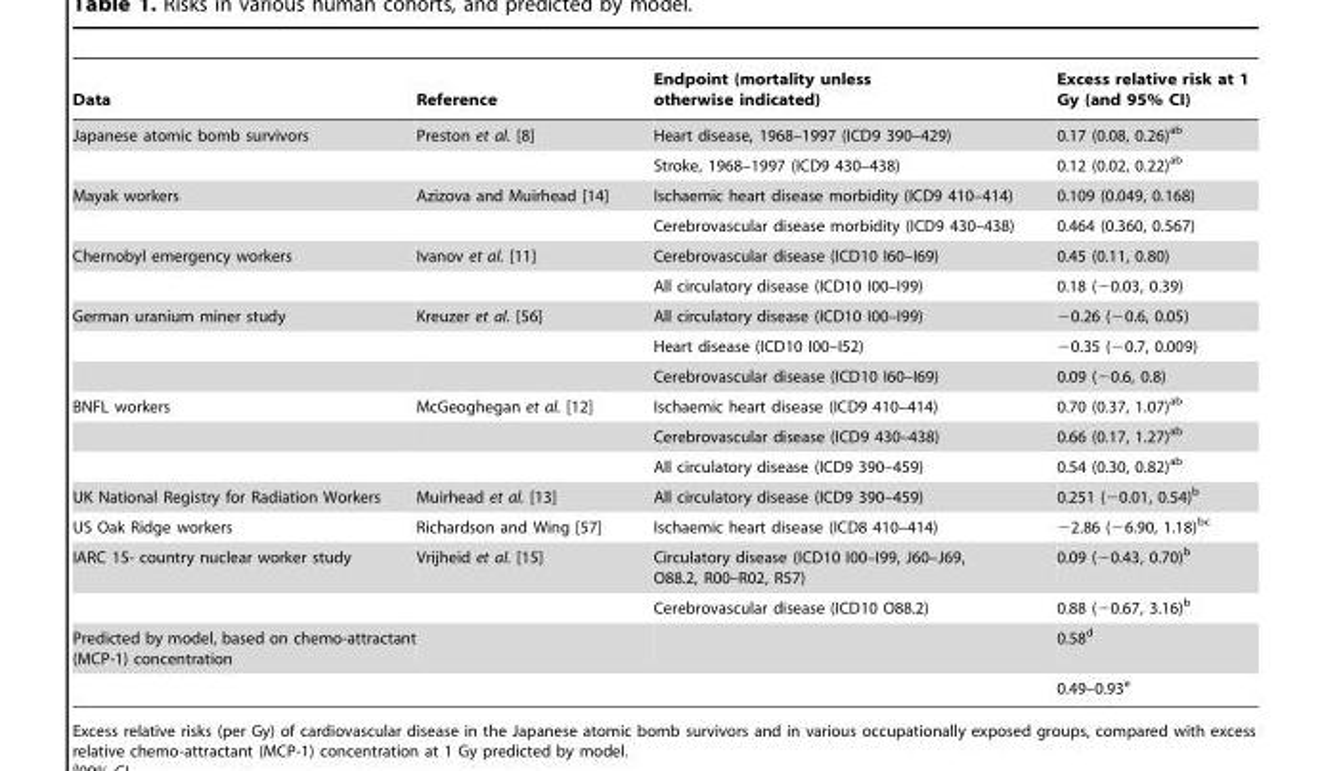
<table><thead><tr><td>Data</td><td>Reference</td><td>Endpoint (mortality unless otherwise indicated)</td><td>Excess relative risk at 1 Gy (and 95% CI)</td></tr></thead><tbody><tr><td rowspan="2">Japanese atomic bomb survivors</td><td>Preston et al. [8]</td><td>Heart disease, 1968–1997 (ICD9 390–429)</td><td>0.17 (0.08, 0.26)<sup>ab</sup></td></tr><tr><td></td><td>Stroke, 1968–1997 (ICD9 430–438)</td><td>0.12 (0.02, 0.22)<sup>ab</sup></td></tr><tr><td rowspan="2">Mayak workers</td><td>Azizova and Muirhead [14]</td><td>Ischaemic heart disease morbidity (ICD9 410–414)</td><td>0.109 (0.049, 0.168)</td></tr><tr><td></td><td>Cerebrovascular disease morbidity (ICD9 430–438)</td><td>0.464 (0.360, 0.567)</td></tr><tr><td rowspan="2">Chernobyl emergency workers</td><td>Ivanov et al. [11]</td><td>Cerebrovascular disease (ICD10 I60–I69)</td><td>0.45 (0.11, 0.80)</td></tr><tr><td></td><td>All circulatory disease (ICD10 I00–I99)</td><td>0.18 (−0.03, 0.39)</td></tr><tr><td rowspan="3">German uranium miner study</td><td>Kreuzer et al. [56]</td><td>All circulatory disease (ICD10 I00–I99)</td><td>−0.26 (−0.6, 0.05)</td></tr><tr><td></td><td>Heart disease (ICD10 I00–I52)</td><td>−0.35 (−0.7, 0.009)</td></tr><tr><td></td><td>Cerebrovascular disease (ICD10 I60–I69)</td><td>0.09 (−0.6, 0.8)</td></tr><tr><td rowspan="3">BNFL workers</td><td>McGeoghegan et al. [12]</td><td>Ischaemic heart disease (ICD9 410–414)</td><td>0.70 (0.37, 1.07)<sup>ab</sup></td></tr><tr><td></td><td>Cerebrovascular disease (ICD9 430–438)</td><td>0.66 (0.17, 1.27)<sup>ab</sup></td></tr><tr><td></td><td>All circulatory disease (ICD9 390–459)</td><td>0.54 (0.30, 0.82)<sup>ab</sup></td></tr><tr><td>UK National Registry for Radiation Workers</td><td>Muirhead et al. [13]</td><td>All circulatory disease (ICD9 390–459)</td><td>0.251 (−0.01, 0.54)<sup>b</sup></td></tr><tr><td>US Oak Ridge workers</td><td>Richardson and Wing [57]</td><td>Ischaemic heart disease (ICD8 410–414)</td><td>−2.86 (−6.90, 1.18)<sup>bc</sup></td></tr><tr><td rowspan="2">IARC 15- country nuclear worker study</td><td>Vrijheid et al. [15]</td><td>Circulatory disease (ICD10 I00–I99, J60–J69, O88.2, R00–R02, R57)</td><td>0.09 (−0.43, 0.70)<sup>b</sup></td></tr><tr><td></td><td>Cerebrovascular disease (ICD10 O88.2)</td><td>0.88 (−0.67, 3.16)<sup>b</sup></td></tr><tr><td rowspan="2">Predicted by model, based on chemo-attractant (MCP-1) concentration</td><td></td><td></td><td>0.58<sup>d</sup></td></tr><tr><td></td><td></td><td>0.49–0.93<sup>e</sup></td></tr></tbody></table>